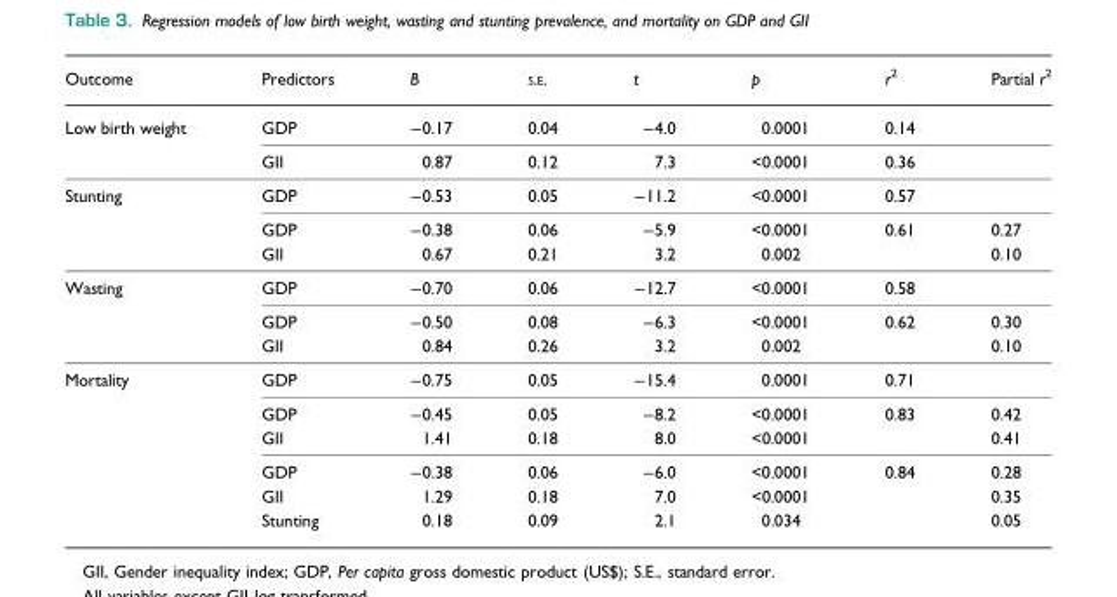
<table><thead><tr><td>Outcome</td><td>Predictors</td><td>B</td><td>S.E.</td><td>t</td><td>p</td><td>r<sup>2</sup></td><td>Partial r<sup>2</sup></td></tr></thead><tbody><tr><td rowspan="2">Low birth weight</td><td>GDP</td><td>−0.17</td><td>0.04</td><td>−4.0</td><td>0.0001</td><td>0.14</td><td></td></tr><tr><td>GII</td><td>0.87</td><td>0.12</td><td>7.3</td><td>&lt;0.0001</td><td>0.36</td><td></td></tr><tr><td rowspan="3">Stunting</td><td>GDP</td><td>−0.53</td><td>0.05</td><td>−11.2</td><td>&lt;0.0001</td><td>0.57</td><td></td></tr><tr><td>GDP</td><td>−0.38</td><td>0.06</td><td>−5.9</td><td>&lt;0.0001</td><td>0.61</td><td>0.27</td></tr><tr><td>GII</td><td>0.67</td><td>0.21</td><td>3.2</td><td>0.002</td><td></td><td>0.10</td></tr><tr><td rowspan="3">Wasting</td><td>GDP</td><td>−0.70</td><td>0.06</td><td>−12.7</td><td>&lt;0.0001</td><td>0.58</td><td></td></tr><tr><td>GDP</td><td>−0.50</td><td>0.08</td><td>−6.3</td><td>&lt;0.0001</td><td>0.62</td><td>0.30</td></tr><tr><td>GII</td><td>0.84</td><td>0.26</td><td>3.2</td><td>0.002</td><td></td><td>0.10</td></tr><tr><td rowspan="6">Mortality</td><td>GDP</td><td>−0.75</td><td>0.05</td><td>−15.4</td><td>0.0001</td><td>0.71</td><td></td></tr><tr><td>GDP</td><td>−0.45</td><td>0.05</td><td>−8.2</td><td>&lt;0.0001</td><td>0.83</td><td>0.42</td></tr><tr><td>GII</td><td>1.41</td><td>0.18</td><td>8.0</td><td>&lt;0.0001</td><td></td><td>0.41</td></tr><tr><td>GDP</td><td>−0.38</td><td>0.06</td><td>−6.0</td><td>&lt;0.0001</td><td>0.84</td><td>0.28</td></tr><tr><td>GII</td><td>1.29</td><td>0.18</td><td>7.0</td><td>&lt;0.0001</td><td></td><td>0.35</td></tr><tr><td>Stunting</td><td>0.18</td><td>0.09</td><td>2.1</td><td>0.034</td><td></td><td>0.05</td></tr></tbody></table>